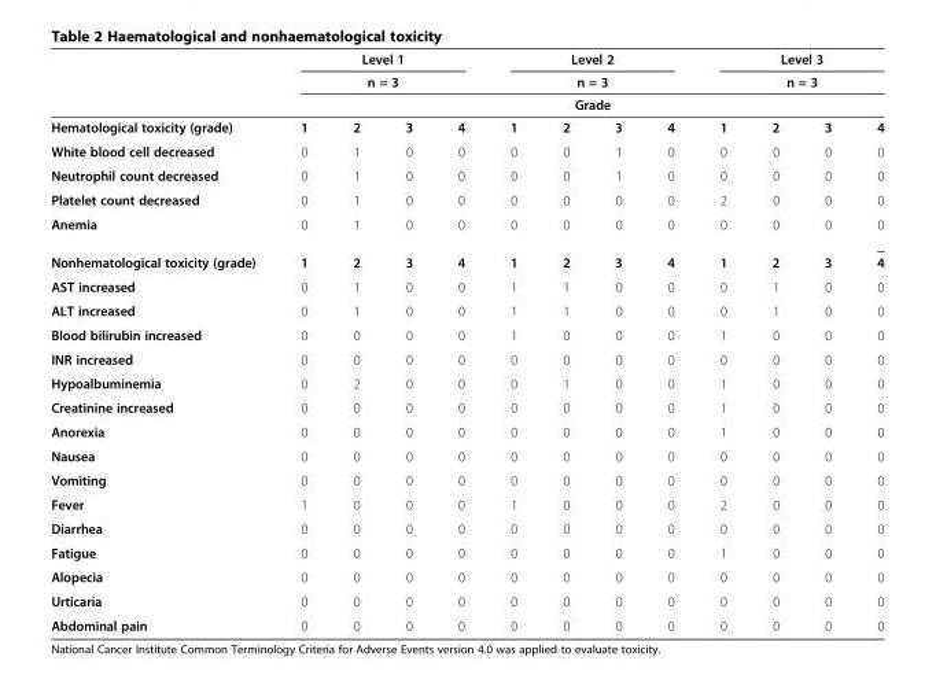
<table><thead><tr><td rowspan="4">Hematological toxicity (grade)</td><td rowspan="2" colspan="4">Level 1 n = 3</td><td rowspan="2" colspan="4">Level 2 n = 3</td><td rowspan="2" colspan="4">Level 3 n = 3</td></tr><tr></tr><tr><td colspan="12">Grade</td></tr><tr><td>1</td><td>2</td><td>3</td><td>4</td><td>1</td><td>2</td><td>3</td><td>4</td><td>1</td><td>2</td><td>3</td><td>4</td></tr></thead><tbody><tr><td>White blood cell decreased</td><td>0</td><td>1</td><td>0</td><td>0</td><td>0</td><td>0</td><td>1</td><td>0</td><td>0</td><td>0</td><td>0</td><td>0</td></tr><tr><td>Neutrophil count decreased</td><td>0</td><td>1</td><td>0</td><td>0</td><td>0</td><td>0</td><td>1</td><td>0</td><td>0</td><td>0</td><td>0</td><td>0</td></tr><tr><td>Platelet count decreased</td><td>0</td><td>1</td><td>0</td><td>0</td><td>0</td><td>0</td><td>0</td><td>0</td><td>2</td><td>0</td><td>0</td><td>0</td></tr><tr><td>Anemia</td><td>0</td><td>1</td><td>0</td><td>0</td><td>0</td><td>0</td><td>0</td><td>0</td><td>0</td><td>0</td><td>0</td><td>0</td></tr><tr><td>Nonhematological toxicity (grade)</td><td>1</td><td>2</td><td>3</td><td>4</td><td>1</td><td>2</td><td>3</td><td>4</td><td>1</td><td>2</td><td>3</td><td>4</td></tr><tr><td>AST increased</td><td>0</td><td>1</td><td>0</td><td>0</td><td>1</td><td>1</td><td>0</td><td>0</td><td>0</td><td>1</td><td>0</td><td>0</td></tr><tr><td>ALT increased</td><td>0</td><td>1</td><td>0</td><td>0</td><td>1</td><td>1</td><td>0</td><td>0</td><td>0</td><td>1</td><td>0</td><td>0</td></tr><tr><td>Blood bilirubin increased</td><td>0</td><td>0</td><td>0</td><td>0</td><td>1</td><td>0</td><td>0</td><td>0</td><td>1</td><td>0</td><td>0</td><td>0</td></tr><tr><td>INR increased</td><td>0</td><td>0</td><td>0</td><td>0</td><td>0</td><td>0</td><td>0</td><td>0</td><td>0</td><td>0</td><td>0</td><td>0</td></tr><tr><td>Hypoalbuminemia</td><td>0</td><td>2</td><td>0</td><td>0</td><td>0</td><td>1</td><td>0</td><td>0</td><td>1</td><td>0</td><td>0</td><td>0</td></tr><tr><td>Creatinine increased</td><td>0</td><td>0</td><td>0</td><td>0</td><td>0</td><td>0</td><td>0</td><td>0</td><td>1</td><td>0</td><td>0</td><td>0</td></tr><tr><td>Anorexia</td><td>0</td><td>0</td><td>0</td><td>0</td><td>0</td><td>0</td><td>0</td><td>0</td><td>1</td><td>0</td><td>0</td><td>0</td></tr><tr><td>Nausea</td><td>0</td><td>0</td><td>0</td><td>0</td><td>0</td><td>0</td><td>0</td><td>0</td><td>0</td><td>0</td><td>0</td><td>0</td></tr><tr><td>Vomiting</td><td>0</td><td>0</td><td>0</td><td>0</td><td>0</td><td>0</td><td>0</td><td>0</td><td>0</td><td>0</td><td>0</td><td>0</td></tr><tr><td>Fever</td><td>1</td><td>0</td><td>0</td><td>0</td><td>1</td><td>0</td><td>0</td><td>0</td><td>2</td><td>0</td><td>0</td><td>0</td></tr><tr><td>Diarrhea</td><td>0</td><td>0</td><td>0</td><td>0</td><td>0</td><td>0</td><td>0</td><td>0</td><td>0</td><td>0</td><td>0</td><td>0</td></tr><tr><td>Fatigue</td><td>0</td><td>0</td><td>0</td><td>0</td><td>0</td><td>0</td><td>0</td><td>0</td><td>1</td><td>0</td><td>0</td><td>0</td></tr><tr><td>Alopecia</td><td>0</td><td>0</td><td>0</td><td>0</td><td>0</td><td>0</td><td>0</td><td>0</td><td>0</td><td>0</td><td>0</td><td>0</td></tr><tr><td>Urticaria</td><td>0</td><td>0</td><td>0</td><td>0</td><td>0</td><td>0</td><td>0</td><td>0</td><td>0</td><td>0</td><td>0</td><td>0</td></tr><tr><td>Abdominal pain</td><td>0</td><td>0</td><td>0</td><td>0</td><td>0</td><td>0</td><td>0</td><td>0</td><td>0</td><td>0</td><td>0</td><td>0</td></tr></tbody></table>